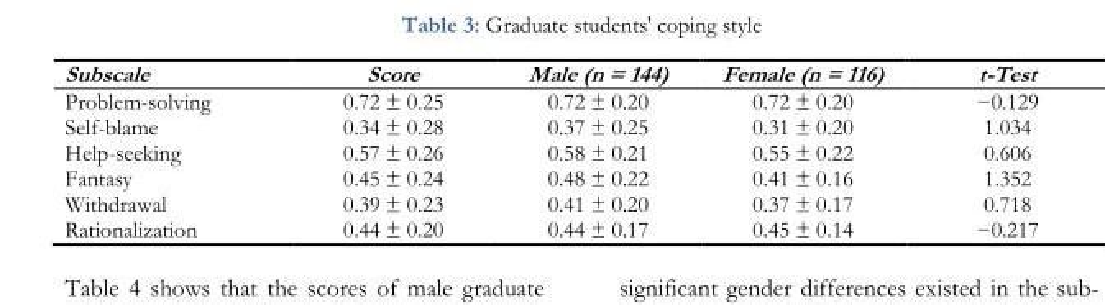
<table><thead><tr><td>Subscale</td><td>Score</td><td>Male (n = 144)</td><td>Female (n = 116)</td><td>t-Test</td></tr></thead><tbody><tr><td>Problem-solving</td><td>0.72 ± 0.25</td><td>0.72 ± 0.20</td><td>0.72 ± 0.20</td><td>−0.129</td></tr><tr><td>Self-blame</td><td>0.34 ± 0.28</td><td>0.37 ± 0.25</td><td>0.31 ± 0.20</td><td>1.034</td></tr><tr><td>Help-seeking</td><td>0.57 ± 0.26</td><td>0.58 ± 0.21</td><td>0.55 ± 0.22</td><td>0.606</td></tr><tr><td>Fantasy</td><td>0.45 ± 0.24</td><td>0.48 ± 0.22</td><td>0.41 ± 0.16</td><td>1.352</td></tr><tr><td>Withdrawal</td><td>0.39 ± 0.23</td><td>0.41 ± 0.20</td><td>0.37 ± 0.17</td><td>0.718</td></tr><tr><td>Rationalization</td><td>0.44 ± 0.20</td><td>0.44 ± 0.17</td><td>0.45 ± 0.14</td><td>−0.217</td></tr></tbody></table>